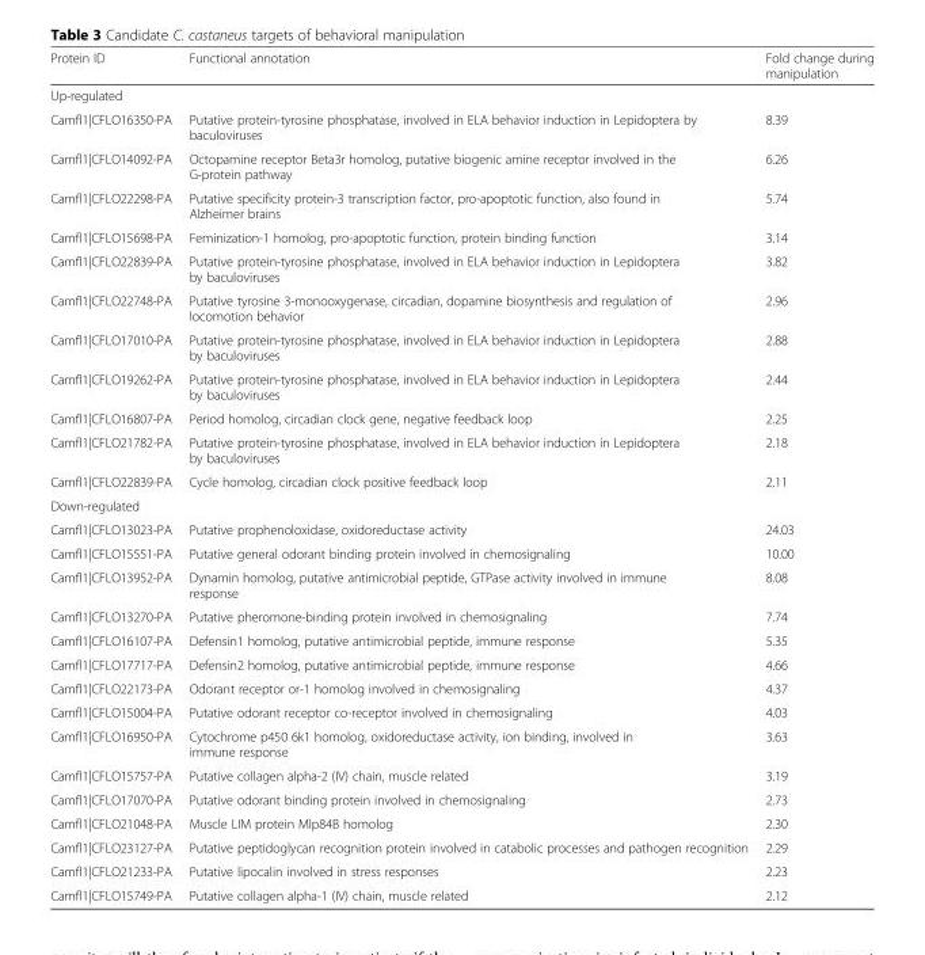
<table><thead><tr><td>Protein ID</td><td>Functional annotation</td><td>Fold change during manipulation</td></tr></thead><tbody><tr><td colspan="3">Up-regulated</td></tr><tr><td>Camfl1|CFLO16350-PA</td><td>Putative protein-tyrosine phosphatase, involved in ELA behavior induction in Lepidoptera by baculoviruses</td><td>8.39</td></tr><tr><td>Camfl1|CFLO14092-PA</td><td>Octopamine receptor Beta3r homolog, putative biogenic amine receptor involved in the G-protein pathway</td><td>6.26</td></tr><tr><td>Camfl1|CFLO22298-PA</td><td>Putative specificity protein-3 transcription factor, pro-apoptotic function, also found in Alzheimer brains</td><td>5.74</td></tr><tr><td>Camfl1|CFLO15698-PA</td><td>Feminization-1 homolog, pro-apoptotic function, protein binding function</td><td>3.14</td></tr><tr><td>Camfl1|CFLO22839-PA</td><td>Putative protein-tyrosine phosphatase, involved in ELA behavior induction in Lepidoptera by baculoviruses</td><td>3.82</td></tr><tr><td>Camfl1|CFLO22748-PA</td><td>Putative tyrosine 3-monooxygenase, circadian, dopamine biosynthesis and regulation of locomotion behavior</td><td>2.96</td></tr><tr><td>Camfl1|CFLO17010-PA</td><td>Putative protein-tyrosine phosphatase, involved in ELA behavior induction in Lepidoptera by baculoviruses</td><td>2.88</td></tr><tr><td>Camfl1|CFLO19262-PA</td><td>Putative protein-tyrosine phosphatase, involved in ELA behavior induction in Lepidoptera by baculoviruses</td><td>2.44</td></tr><tr><td>Camfl1|CFLO16807-PA</td><td>Period homolog, circadian clock gene, negative feedback loop</td><td>2.25</td></tr><tr><td>Camfl1|CFLO21782-PA</td><td>Putative protein-tyrosine phosphatase, involved in ELA behavior induction in Lepidoptera by baculoviruses</td><td>2.18</td></tr><tr><td>Camfl1|CFLO22839-PA</td><td>Cycle homolog, circadian clock positive feedback loop</td><td>2.11</td></tr><tr><td colspan="3">Down-regulated</td></tr><tr><td>Camfl1|CFLO13023-PA</td><td>Putative prophenoloxidase, oxidoreductase activity</td><td>24.03</td></tr><tr><td>Camfl1|CFLO15551-PA</td><td>Putative general odorant binding protein involved in chemosignaling</td><td>10.00</td></tr><tr><td>Camfl1|CFLO13952-PA</td><td>Dynamin homolog, putative antimicrobial peptide, GTPase activity involved in immune response</td><td>8.08</td></tr><tr><td>Camfl1|CFLO13270-PA</td><td>Putative pheromone-binding protein involved in chemosignaling</td><td>7.74</td></tr><tr><td>Camfl1|CFLO16107-PA</td><td>Defensin1 homolog, putative antimicrobial peptide, immune response</td><td>5.35</td></tr><tr><td>Camfl1|CFLO17717-PA</td><td>Defensin2 homolog, putative antimicrobial peptide, immune response</td><td>4.66</td></tr><tr><td>Camfl1|CFLO22173-PA</td><td>Odorant receptor or-1 homolog involved in chemosignaling</td><td>4.37</td></tr><tr><td>Camfl1|CFLO15004-PA</td><td>Putative odorant receptor co-receptor involved in chemosignaling</td><td>4.03</td></tr><tr><td>Camfl1|CFLO16950-PA</td><td>Cytochrome p450 6k1 homolog, oxidoreductase activity, ion binding, involved in immune response</td><td>3.63</td></tr><tr><td>Camfl1|CFLO15757-PA</td><td>Putative collagen alpha-2 (IV) chain, muscle related</td><td>3.19</td></tr><tr><td>Camfl1|CFLO17070-PA</td><td>Putative odorant binding protein involved in chemosignaling</td><td>2.73</td></tr><tr><td>Camfl1|CFLO21048-PA</td><td>Muscle LIM protein Mlp84B homolog</td><td>2.30</td></tr><tr><td>Camfl1|CFLO23127-PA</td><td>Putative peptidoglycan recognition protein involved in catabolic processes and pathogen recognition</td><td>2.29</td></tr><tr><td>Camfl1|CFLO21233-PA</td><td>Putative lipocalin involved in stress responses</td><td>2.23</td></tr><tr><td>Camfl1|CFLO15749-PA</td><td>Putative collagen alpha-1 (IV) chain, muscle related</td><td>2.12</td></tr></tbody></table>